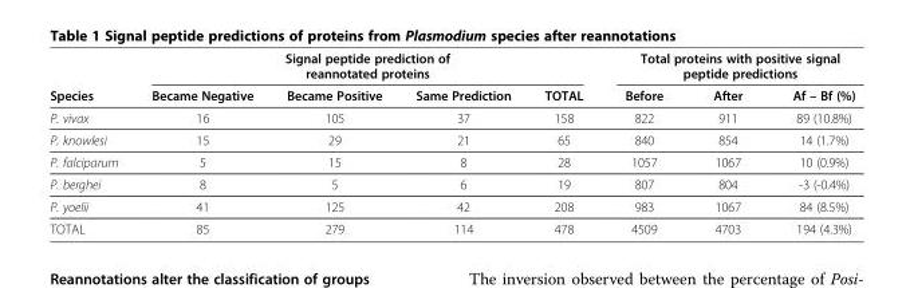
<table><thead><tr><td rowspan="2">Species</td><td colspan="4">Signal peptide prediction of reannotated proteins</td><td colspan="3">Total proteins with positive signal peptide predictions</td></tr><tr><td>Became Negative</td><td>Became Positive</td><td>Same Prediction</td><td>TOTAL</td><td>Before</td><td>After</td><td>Af – Bf (%)</td></tr></thead><tbody><tr><td>P. vivax</td><td>16</td><td>105</td><td>37</td><td>158</td><td>822</td><td>911</td><td>89 (10.8%)</td></tr><tr><td>P. knowlesi</td><td>15</td><td>29</td><td>21</td><td>65</td><td>840</td><td>854</td><td>14 (1.7%)</td></tr><tr><td>P. falciparum</td><td>5</td><td>15</td><td>8</td><td>28</td><td>1057</td><td>1067</td><td>10 (0.9%)</td></tr><tr><td>P. berghei</td><td>8</td><td>5</td><td>6</td><td>19</td><td>807</td><td>804</td><td>-3 (-0.4%)</td></tr><tr><td>P. yoelii</td><td>41</td><td>125</td><td>42</td><td>208</td><td>983</td><td>1067</td><td>84 (8.5%)</td></tr><tr><td>TOTAL</td><td>85</td><td>279</td><td>114</td><td>478</td><td>4509</td><td>4703</td><td>194 (4.3%)</td></tr></tbody></table>